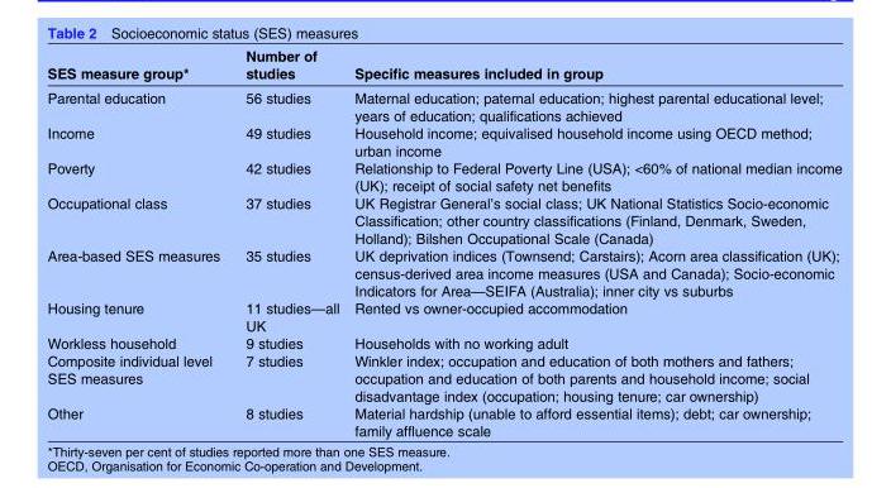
<table><thead><tr><td>SES measure group*</td><td>Number of studies</td><td>Specific measures included in group</td></tr></thead><tbody><tr><td>Parental education</td><td>56 studies</td><td>Maternal education; paternal education; highest parental educational level; years of education; qualifications achieved</td></tr><tr><td>Income</td><td>49 studies</td><td>Household income; equivalised household income using OECD method; urban income</td></tr><tr><td>Poverty</td><td>42 studies</td><td>Relationship to Federal Poverty Line (USA); &lt;60% of national median income (UK); receipt of social safety net benefits</td></tr><tr><td>Occupational class</td><td>37 studies</td><td>UK Registrar General’s social class; UK National Statistics Socio-economic Classification; other country classifications (Finland, Denmark, Sweden, Holland); Bilshen Occupational Scale (Canada)</td></tr><tr><td>Area-based SES measures</td><td>35 studies</td><td>UK deprivation indices (Townsend; Carstairs); Acorn area classification (UK); census-derived area income measures (USA and Canada); Socio-economic Indicators for Area—SEIFA (Australia); inner city vs suburbs</td></tr><tr><td>Housing tenure</td><td>11 studies—all UK</td><td>Rented vs owner-occupied accommodation</td></tr><tr><td>Workless household</td><td>9 studies</td><td>Households with no working adult</td></tr><tr><td>Composite individual level SES measures</td><td>7 studies</td><td>Winkler index; occupation and education of both mothers and fathers; occupation and education of both parents and household income; social disadvantage index (occupation; housing tenure; car ownership)</td></tr><tr><td>Other</td><td>8 studies</td><td>Material hardship (unable to afford essential items); debt; car ownership; family affluence scale</td></tr></tbody></table>